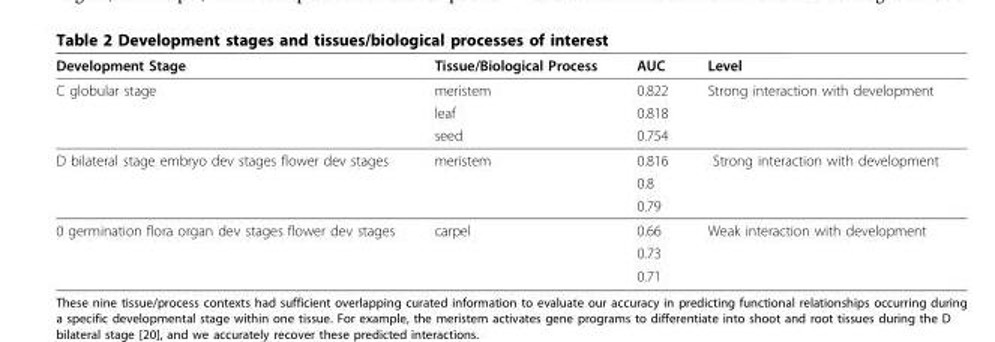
<table><thead><tr><td>Development Stage</td><td>Tissue/Biological Process</td><td>AUC</td><td>Level</td></tr></thead><tbody><tr><td rowspan="3">C globular stage</td><td>meristem</td><td>0.822</td><td>Strong interaction with development</td></tr><tr><td>leaf</td><td>0.818</td><td></td></tr><tr><td>seed</td><td>0.754</td><td></td></tr><tr><td rowspan="3">D bilateral stage embryo dev stages flower dev stages</td><td>meristem</td><td>0.816</td><td>Strong interaction with development</td></tr><tr><td></td><td>0.8</td><td></td></tr><tr><td></td><td>0.79</td><td></td></tr><tr><td rowspan="3">0 germination flora organ dev stages flower dev stages</td><td>carpel</td><td>0.66</td><td>Weak interaction with development</td></tr><tr><td></td><td>0.73</td><td></td></tr><tr><td></td><td>0.71</td><td></td></tr></tbody></table>